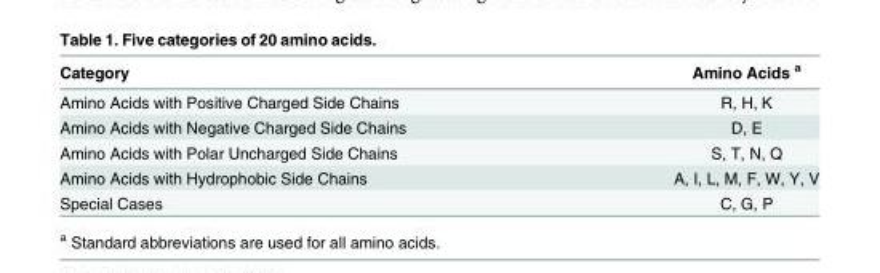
<table><thead><tr><td>Category</td><td>Amino Acids <sup>a</sup></td></tr></thead><tbody><tr><td>Amino Acids with Positive Charged Side Chains</td><td>R, H, K</td></tr><tr><td>Amino Acids with Negative Charged Side Chains</td><td>D, E</td></tr><tr><td>Amino Acids with Polar Uncharged Side Chains</td><td>S, T, N, Q</td></tr><tr><td>Amino Acids with Hydrophobic Side Chains</td><td>A, I, L, M, F, W, Y, V</td></tr><tr><td>Special Cases</td><td>C, G, P</td></tr></tbody></table>